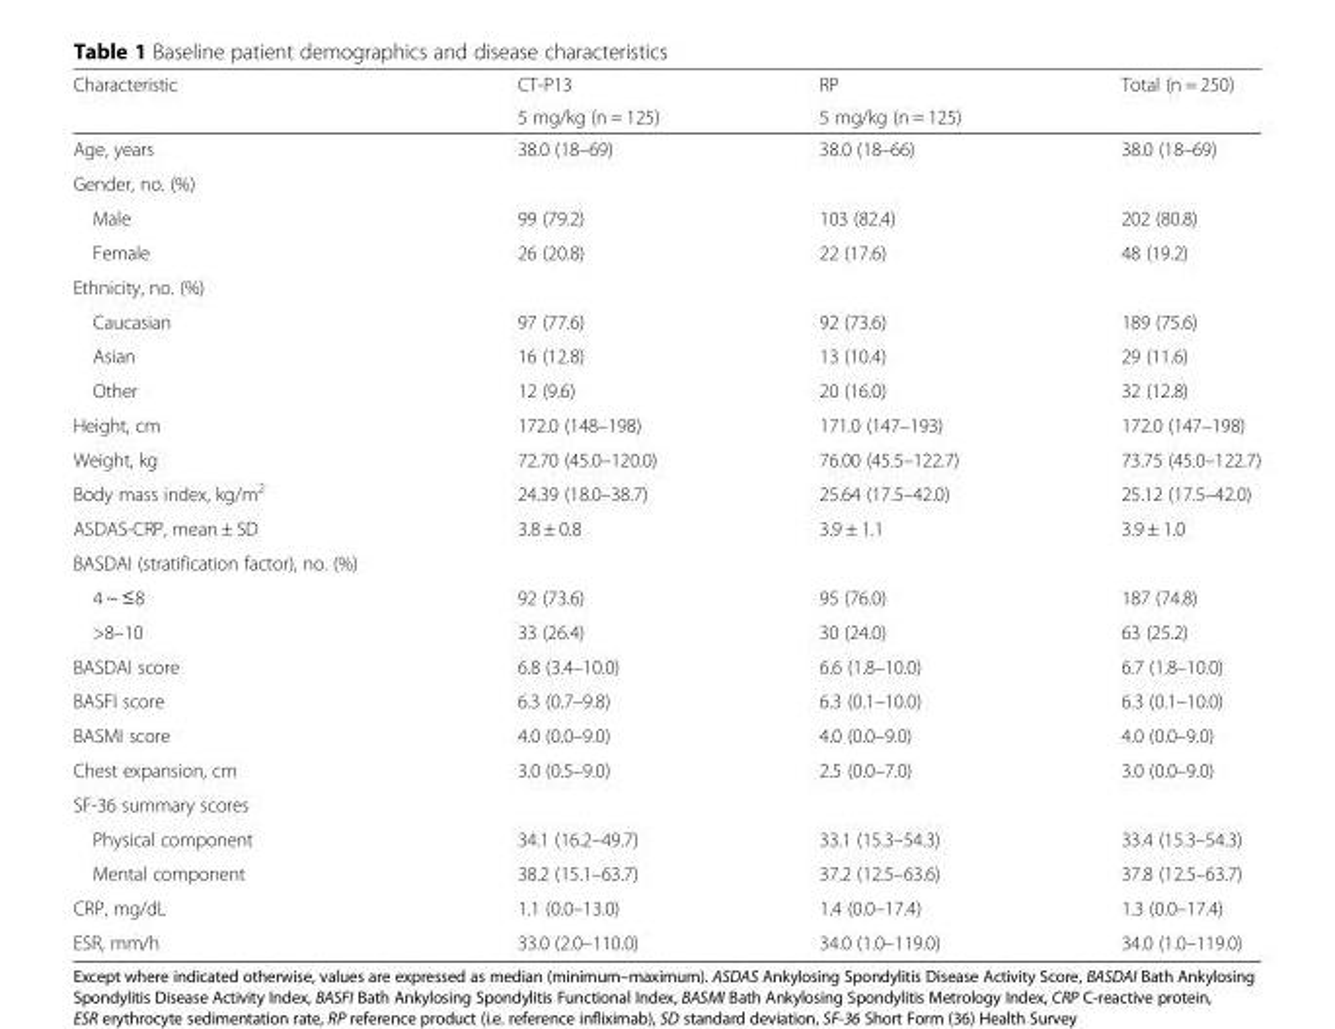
<table><thead><tr><td rowspan="2">Characteristic</td><td rowspan="2">CT-P13 5 mg/kg (n = 125)</td><td rowspan="2">RP 5 mg/kg (n = 125)</td><td rowspan="2">Total (n = 250)</td></tr><tr></tr></thead><tbody><tr><td>Age, years</td><td>38.0 (18–69)</td><td>38.0 (18–66)</td><td>38.0 (18–69)</td></tr><tr><td colspan="4">Gender, no. (%)</td></tr><tr><td>Male</td><td>99 (79.2)</td><td>103 (82.4)</td><td>202 (80.8)</td></tr><tr><td>Female</td><td>26 (20.8)</td><td>22 (17.6)</td><td>48 (19.2)</td></tr><tr><td colspan="4">Ethnicity, no. (%)</td></tr><tr><td>Caucasian</td><td>97 (77.6)</td><td>92 (73.6)</td><td>189 (75.6)</td></tr><tr><td>Asian</td><td>16 (12.8)</td><td>13 (10.4)</td><td>29 (11.6)</td></tr><tr><td>Other</td><td>12 (9.6)</td><td>20 (16.0)</td><td>32 (12.8)</td></tr><tr><td>Height, cm</td><td>172.0 (148–198)</td><td>171.0 (147–193)</td><td>172.0 (147–198)</td></tr><tr><td>Weight, kg</td><td>72.70 (45.0–120.0)</td><td>76.00 (45.5–122.7)</td><td>73.75 (45.0–122.7)</td></tr><tr><td>Body mass index, kg/m<sup>2</sup></td><td>24.39 (18.0–38.7)</td><td>25.64 (17.5–42.0)</td><td>25.12 (17.5–42.0)</td></tr><tr><td>ASDAS-CRP, mean ± SD</td><td>3.8 ± 0.8</td><td>3.9 ± 1.1</td><td>3.9 ± 1.0</td></tr><tr><td colspan="4">BASDAI (stratification factor), no. (%)</td></tr><tr><td>4 ~ ≤8</td><td>92 (73.6)</td><td>95 (76.0)</td><td>187 (74.8)</td></tr><tr><td>&gt;8–10</td><td>33 (26.4)</td><td>30 (24.0)</td><td>63 (25.2)</td></tr><tr><td>BASDAI score</td><td>6.8 (3.4–10.0)</td><td>6.6 (1.8–10.0)</td><td>6.7 (1.8–10.0)</td></tr><tr><td>BASFI score</td><td>6.3 (0.7–9.8)</td><td>6.3 (0.1–10.0)</td><td>6.3 (0.1–10.0)</td></tr><tr><td>BASMI score</td><td>4.0 (0.0–9.0)</td><td>4.0 (0.0–9.0)</td><td>4.0 (0.0–9.0)</td></tr><tr><td>Chest expansion, cm</td><td>3.0 (0.5–9.0)</td><td>2.5 (0.0–7.0)</td><td>3.0 (0.0–9.0)</td></tr><tr><td colspan="4">SF-36 summary scores</td></tr><tr><td>Physical component</td><td>34.1 (16.2–49.7)</td><td>33.1 (15.3–54.3)</td><td>33.4 (15.3–54.3)</td></tr><tr><td>Mental component</td><td>38.2 (15.1–63.7)</td><td>37.2 (12.5–63.6)</td><td>37.8 (12.5–63.7)</td></tr><tr><td>CRP, mg/dL</td><td>1.1 (0.0–13.0)</td><td>1.4 (0.0–17.4)</td><td>1.3 (0.0–17.4)</td></tr><tr><td>ESR, mm/h</td><td>33.0 (2.0–110.0)</td><td>34.0 (1.0–119.0)</td><td>34.0 (1.0–119.0)</td></tr></tbody></table>